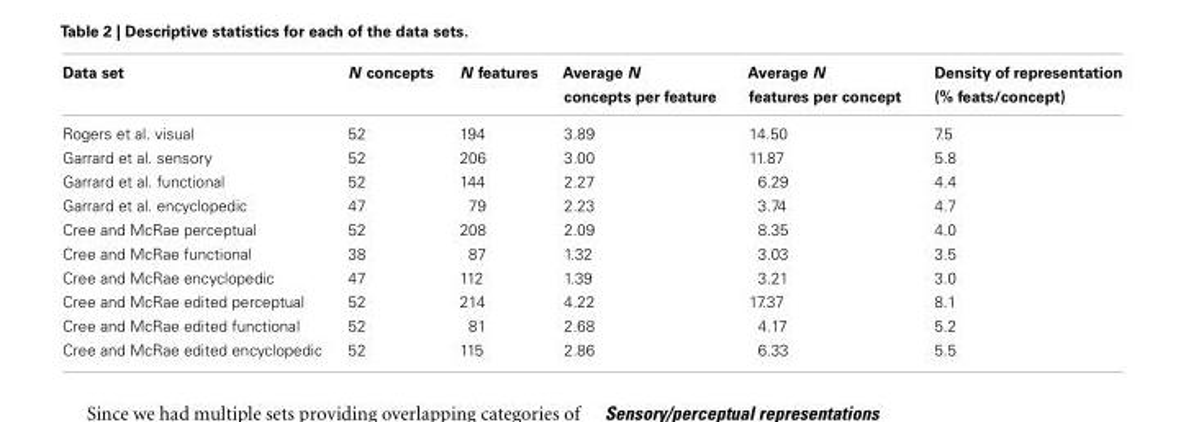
<table><thead><tr><td>Data set</td><td>N concepts</td><td>N features</td><td>Average N concepts per feature</td><td>Average N features per concept</td><td>Density of representation (% feats/concept)</td></tr></thead><tbody><tr><td>Rogers et al. visual</td><td>52</td><td>194</td><td>3.89</td><td>14.50</td><td>7.5</td></tr><tr><td>Garrard et al. sensory</td><td>52</td><td>206</td><td>3.00</td><td>11.87</td><td>5.8</td></tr><tr><td>Garrard et al. functional</td><td>52</td><td>144</td><td>2.27</td><td>6.29</td><td>4.4</td></tr><tr><td>Garrard et al. encyclopedic</td><td>47</td><td>79</td><td>2.23</td><td>3.74</td><td>4.7</td></tr><tr><td>Cree and McRae perceptual</td><td>52</td><td>208</td><td>2.09</td><td>8.35</td><td>4.0</td></tr><tr><td>Cree and McRae functional</td><td>38</td><td>87</td><td>1.32</td><td>3.03</td><td>3.5</td></tr><tr><td>Cree and McRae encyclopedic</td><td>47</td><td>112</td><td>1.39</td><td>3.21</td><td>3.0</td></tr><tr><td>Cree and McRae edited perceptual</td><td>52</td><td>214</td><td>4.22</td><td>17.37</td><td>8.1</td></tr><tr><td>Cree and McRae edited functional</td><td>52</td><td>81</td><td>2.68</td><td>4.17</td><td>5.2</td></tr><tr><td>Cree and McRae edited encyclopedic</td><td>52</td><td>115</td><td>2.86</td><td>6.33</td><td>5.5</td></tr></tbody></table>